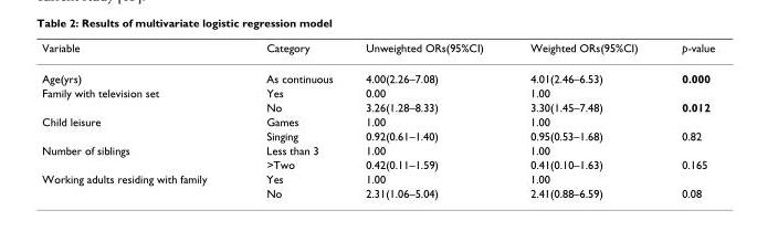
<table><thead><tr><td>Variable</td><td>Category</td><td>Unweighted ORs(95%CI)</td><td>Weighted ORs(95%CI)</td><td>p-value</td></tr></thead><tbody><tr><td>Age(yrs)</td><td>As continuous</td><td>4.00(2.26–7.08)</td><td>4.01(2.46–6.53)</td><td>0.000</td></tr><tr><td rowspan="2">Family with television set</td><td>Yes</td><td>0.00</td><td>1.00</td><td></td></tr><tr><td>No</td><td>3.26(1.28–8.33)</td><td>3.30(1.45–7.48)</td><td>0.012</td></tr><tr><td rowspan="2">Child leisure</td><td>Games</td><td>1.00</td><td>1.00</td><td></td></tr><tr><td>Singing</td><td>0.92(0.61–1.40)</td><td>0.95(0.53–1.68)</td><td>0.82</td></tr><tr><td rowspan="2">Number of siblings</td><td>Less than 3</td><td>1.00</td><td>1.00</td><td></td></tr><tr><td>&gt;Two</td><td>0.42(0.11–1.59)</td><td>0.41(0.10–1.63)</td><td>0.165</td></tr><tr><td rowspan="2">Working adults residing with family</td><td>Yes</td><td>1.00</td><td>1.00</td><td></td></tr><tr><td>No</td><td>2.31(1.06–5.04)</td><td>2.41(0.88–6.59)</td><td>0.08</td></tr></tbody></table>